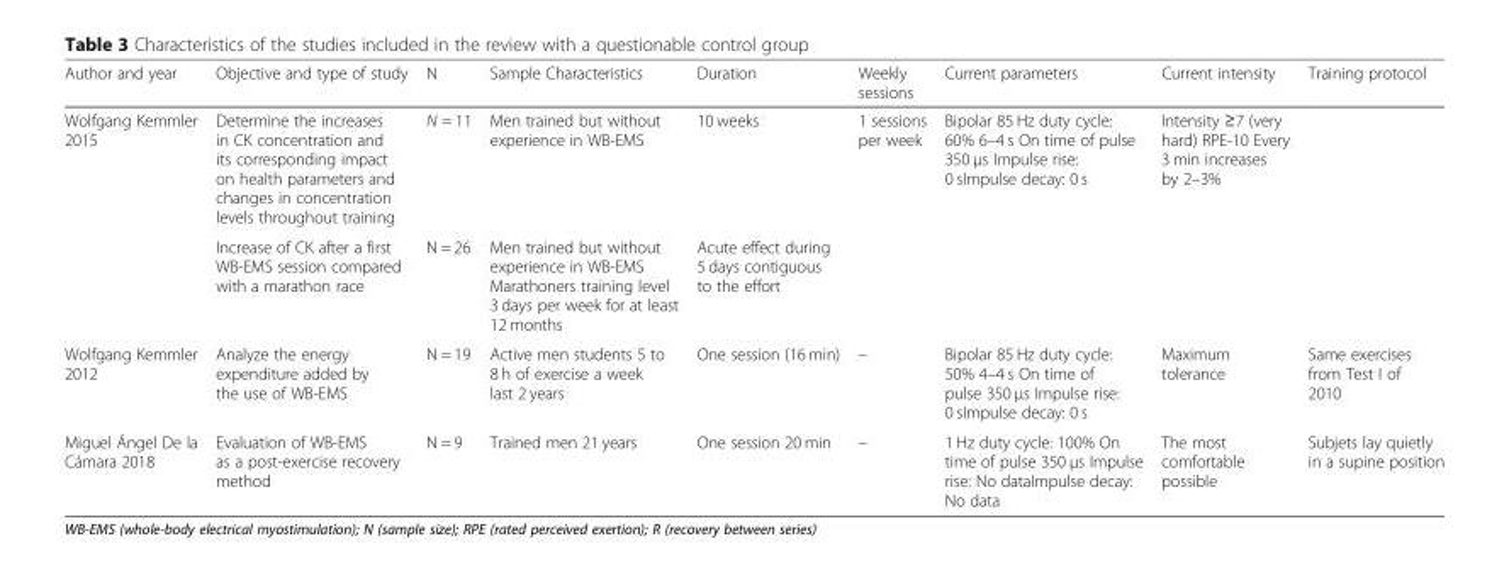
<table><thead><tr><td>Author and year</td><td>Objective and type of study</td><td>N</td><td>Sample Characteristics</td><td>Duration</td><td>Weekly sessions</td><td>Current parameters</td><td>Current intensity</td><td>Training protocol</td></tr></thead><tbody><tr><td rowspan="2">Wolfgang Kemmler 2015</td><td>Determine the increases in CK concentration and its corresponding impact on health parameters and changes in concentration levels throughout training</td><td>N = 11</td><td>Men trained but without experience in WB-EMS</td><td>10 weeks</td><td>1 sessions per week</td><td rowspan="2">Bipolar 85 Hz duty cycle: 60% 6–4 s On time of pulse 350 μs Impulse rise: 0 sImpulse decay: 0 s</td><td rowspan="2">Intensity ≥7 (very hard) RPE-10 Every 3 min increases by 2–3%</td><td></td></tr><tr><td>Increase of CK after a first WB-EMS session compared with a marathon race</td><td>N = 26</td><td>Men trained but without experience in WB-EMS Marathoners training level 3 days per week for at least 12 months</td><td>Acute effect during 5 days contiguous to the effort</td><td></td><td></td></tr><tr><td>Wolfgang Kemmler 2012</td><td>Analyze the energy expenditure added by the use of WB-EMS</td><td>N = 19</td><td>Active men students 5 to 8 h of exercise a week last 2 years</td><td>One session (16 min)</td><td>–</td><td>Bipolar 85 Hz duty cycle: 50% 4–4 s On time of pulse 350 μs Impulse rise: 0 sImpulse decay: 0 s</td><td>Maximum tolerance</td><td>Same exercises from Test I of 2010</td></tr><tr><td>Miguel Ángel De la Cámara 2018</td><td>Evaluation of WB-EMS as a post-exercise recovery method</td><td>N = 9</td><td>Trained men 21 years</td><td>One session 20 min</td><td>–</td><td>1 Hz duty cycle: 100% On time of pulse 350 μs Impulse rise: No dataImpulse decay: No data</td><td>The most comfortable possible</td><td>Subjets lay quietly in a supine position</td></tr></tbody></table>